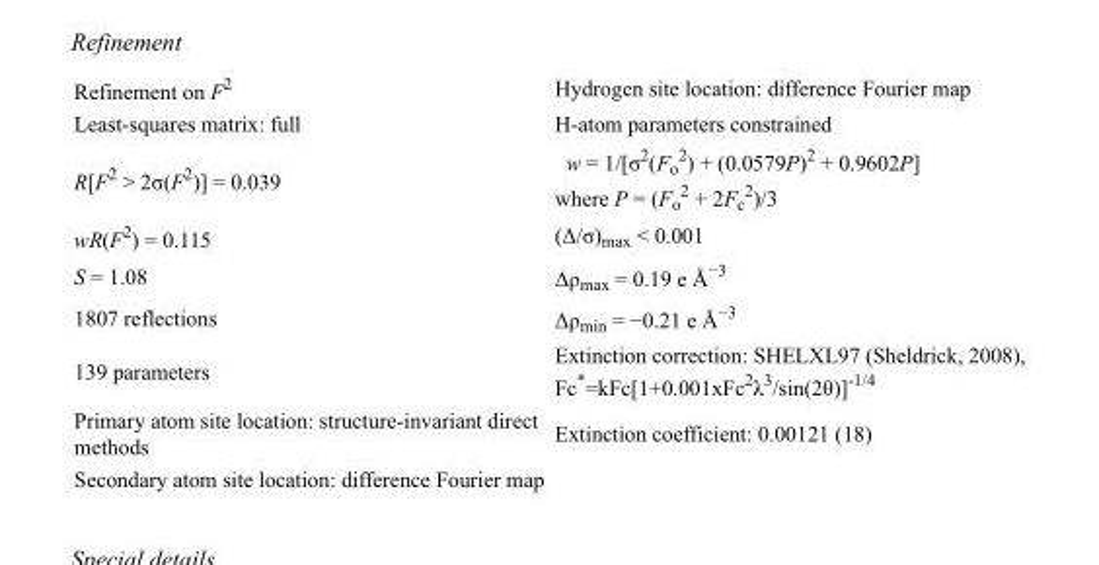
<table><tbody><tr><td>Refinement on F<sup>2</sup></td><td>Hydrogen site location: difference Fourier map</td></tr><tr><td>Least-squares matrix: full</td><td>H-atom parameters constrained</td></tr><tr><td>R[F<sup>2</sup> &gt; 2σ(F<sup>2</sup>)] = 0.039</td><td>w = 1/[σ<sup>2</sup>(F<sub>o</sub> <sup>2</sup>) + (0.0579P)<sup>2</sup> + 0.9602P] where P = (F<sub>o</sub> <sup>2</sup> + 2F<sub>c</sub> <sup>2</sup>)/3</td></tr><tr><td>wR(F<sup>2</sup>) = 0.115</td><td>(Δ/σ)<sub>max</sub> &lt; 0.001</td></tr><tr><td>S = 1.08</td><td>Δρ<sub>max</sub> = 0.19 e Å<sup>−3</sup></td></tr><tr><td>1807 reflections</td><td>Δρ<sub>min</sub> = −0.21 e Å<sup>−3</sup></td></tr><tr><td>139 parameters</td><td>Extinction correction: SHELXL97 (Sheldrick, 2008), Fc*=kFc[1+0.001xFc<sup>2</sup>λ<sup>3</sup>/sin(2θ)]<sup>-1/4</sup></td></tr><tr><td>Primary atom site location: structure-invariant direct methods</td><td>Extinction coefficient: 0.00121 (18)</td></tr><tr><td>Secondary atom site location: difference Fourier map</td><td></td></tr></tbody></table>